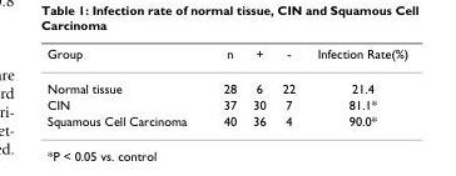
<table><thead><tr><td>Group</td><td>n</td><td>+</td><td>-</td><td>Infection Rate(%)</td></tr></thead><tbody><tr><td>Normal tissue</td><td>28</td><td>6</td><td>22</td><td>21.4</td></tr><tr><td>CIN</td><td>37</td><td>30</td><td>7</td><td>81.1*</td></tr><tr><td>Squamous Cell Carcinoma</td><td>40</td><td>36</td><td>4</td><td>90.0*</td></tr></tbody></table>